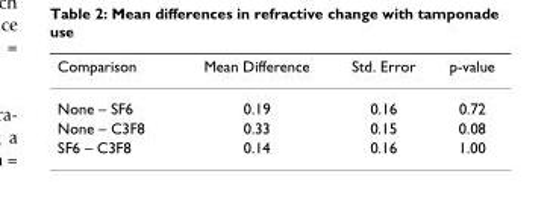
<table><thead><tr><td>Comparison</td><td>Mean Difference</td><td>Std. Error</td><td>p-value</td></tr></thead><tbody><tr><td>None – SF6</td><td>0.19</td><td>0.16</td><td>0.72</td></tr><tr><td>None – C3F8</td><td>0.33</td><td>0.15</td><td>0.08</td></tr><tr><td>SF6 – C3F8</td><td>0.14</td><td>0.16</td><td>1.00</td></tr></tbody></table>